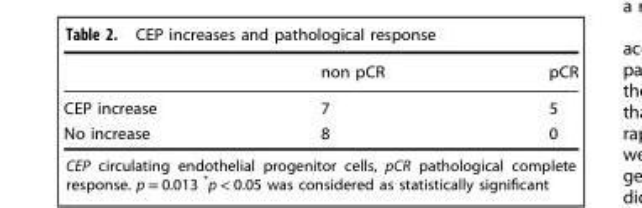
<table><thead><tr><td></td><td>non pCR</td><td>pCR</td></tr></thead><tbody><tr><td>CEP increase</td><td>7</td><td>5</td></tr><tr><td>No increase</td><td>8</td><td>0</td></tr></tbody></table>